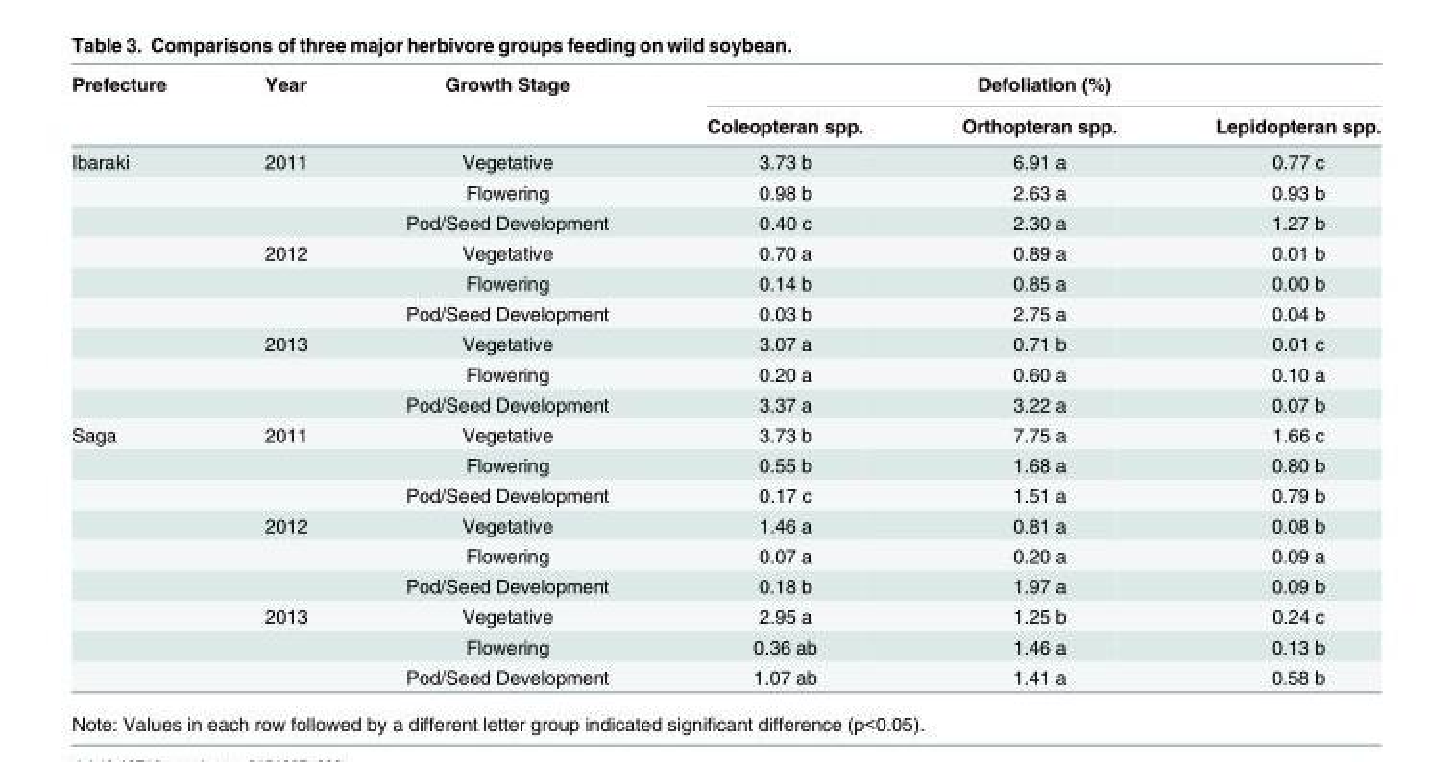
<table><thead><tr><td rowspan="2">Prefecture</td><td rowspan="2">Year</td><td rowspan="2">Growth Stage</td><td colspan="3">Defoliation (%)</td></tr><tr><td>Coleopteran spp.</td><td>Orthopteran spp.</td><td>Lepidopteran spp.</td></tr></thead><tbody><tr><td rowspan="9">Ibaraki</td><td>2011</td><td>Vegetative</td><td>3.73 b</td><td>6.91 a</td><td>0.77 c</td></tr><tr><td></td><td>Flowering</td><td>0.98 b</td><td>2.63 a</td><td>0.93 b</td></tr><tr><td></td><td>Pod/Seed Development</td><td>0.40 c</td><td>2.30 a</td><td>1.27 b</td></tr><tr><td>2012</td><td>Vegetative</td><td>0.70 a</td><td>0.89 a</td><td>0.01 b</td></tr><tr><td></td><td>Flowering</td><td>0.14 b</td><td>0.85 a</td><td>0.00 b</td></tr><tr><td></td><td>Pod/Seed Development</td><td>0.03 b</td><td>2.75 a</td><td>0.04 b</td></tr><tr><td>2013</td><td>Vegetative</td><td>3.07 a</td><td>0.71 b</td><td>0.01 c</td></tr><tr><td></td><td>Flowering</td><td>0.20 a</td><td>0.60 a</td><td>0.10 a</td></tr><tr><td></td><td>Pod/Seed Development</td><td>3.37 a</td><td>3.22 a</td><td>0.07 b</td></tr><tr><td rowspan="9">Saga</td><td>2011</td><td>Vegetative</td><td>3.73 b</td><td>7.75 a</td><td>1.66 c</td></tr><tr><td></td><td>Flowering</td><td>0.55 b</td><td>1.68 a</td><td>0.80 b</td></tr><tr><td></td><td>Pod/Seed Development</td><td>0.17 c</td><td>1.51 a</td><td>0.79 b</td></tr><tr><td>2012</td><td>Vegetative</td><td>1.46 a</td><td>0.81 a</td><td>0.08 b</td></tr><tr><td></td><td>Flowering</td><td>0.07 a</td><td>0.20 a</td><td>0.09 a</td></tr><tr><td></td><td>Pod/Seed Development</td><td>0.18 b</td><td>1.97 a</td><td>0.09 b</td></tr><tr><td>2013</td><td>Vegetative</td><td>2.95 a</td><td>1.25 b</td><td>0.24 c</td></tr><tr><td></td><td>Flowering</td><td>0.36 ab</td><td>1.46 a</td><td>0.13 b</td></tr><tr><td></td><td>Pod/Seed Development</td><td>1.07 ab</td><td>1.41 a</td><td>0.58 b</td></tr></tbody></table>